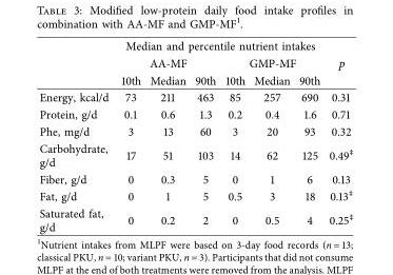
<table><thead><tr><td rowspan="3"></td><td colspan="6">Median and percentile nutrient intakes</td><td rowspan="3">p</td></tr><tr><td colspan="3">AA-MF</td><td colspan="3">GMP-MF</td></tr><tr><td>10th</td><td>Median</td><td>90th</td><td>10th</td><td>Median</td><td>90th</td></tr></thead><tbody><tr><td>Energy, kcal/d</td><td>73</td><td>211</td><td>463</td><td>85</td><td>257</td><td>690</td><td>0.31</td></tr><tr><td>Protein, g/d</td><td>0.1</td><td>0.6</td><td>1.3</td><td>0.2</td><td>0.4</td><td>1.6</td><td>0.71</td></tr><tr><td>Phe, mg/d</td><td>3</td><td>13</td><td>60</td><td>3</td><td>20</td><td>93</td><td>0.32</td></tr><tr><td>Carbohydrate, g/d</td><td>17</td><td>51</td><td>103</td><td>14</td><td>62</td><td>125</td><td>0.49<sup>‡</sup></td></tr><tr><td>Fiber, g/d</td><td>0</td><td>0.3</td><td>5</td><td>0</td><td>1</td><td>6</td><td>0.13</td></tr><tr><td>Fat, g/d</td><td>0</td><td>1</td><td>5</td><td>0.5</td><td>3</td><td>18</td><td>0.13<sup>‡</sup></td></tr><tr><td>Saturated fat, g/d</td><td>0</td><td>0.2</td><td>2</td><td>0</td><td>0.5</td><td>4</td><td>0.25<sup>‡</sup></td></tr></tbody></table>